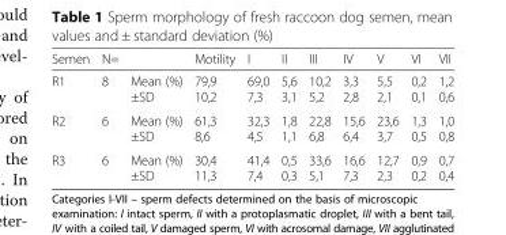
<table><thead><tr><td>Semen</td><td>N=</td><td></td><td>Motility</td><td>I</td><td>II</td><td>III</td><td>IV</td><td>V</td><td>VI</td><td>VII</td></tr></thead><tbody><tr><td>R1</td><td>8</td><td>Mean (%) ±SD</td><td>79,9 10,2</td><td>69,0 7,3</td><td>5,6 3,1</td><td>10,2 5,2</td><td>3,3 2,8</td><td>5,5 2,1</td><td>0,2 0,1</td><td>1,2 0,6</td></tr><tr><td>R2</td><td>6</td><td>Mean (%) ±SD</td><td>61,3 8,6</td><td>32,3 4,5</td><td>1,8 1,1</td><td>22,8 6,8</td><td>15,6 6,4</td><td>23,6 3,7</td><td>1,3 0,5</td><td>1,0 0,8</td></tr><tr><td>R3</td><td>6</td><td>Mean (%) ±SD</td><td>30,4 11,3</td><td>41,4 7,4</td><td>0,5 0,3</td><td>33,6 5,1</td><td>16,6 7,3</td><td>12,7 2,3</td><td>0,9 0,2</td><td>0,7 0,4</td></tr></tbody></table>